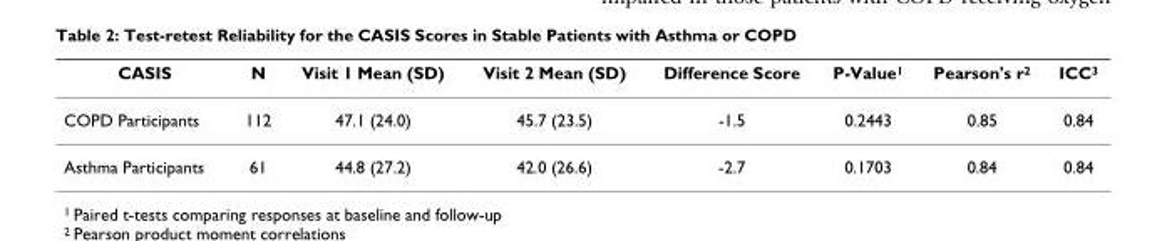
<table><thead><tr><td>CASIS</td><td>N</td><td>Visit 1 Mean (SD)</td><td>Visit 2 Mean (SD)</td><td>Difference Score</td><td>P-Value<sup>1</sup></td><td>Pearson&#x27;s r<sup>2</sup></td><td>ICC<sup>3</sup></td></tr></thead><tbody><tr><td>COPD Participants</td><td>112</td><td>47.1 (24.0)</td><td>45.7 (23.5)</td><td>-1.5</td><td>0.2443</td><td>0.85</td><td>0.84</td></tr><tr><td>Asthma Participants</td><td>61</td><td>44.8 (27.2)</td><td>42.0 (26.6)</td><td>-2.7</td><td>0.1703</td><td>0.84</td><td>0.84</td></tr></tbody></table>